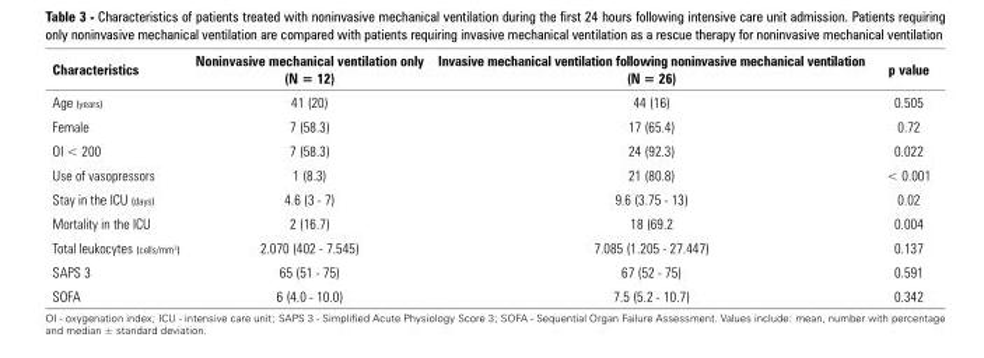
<table><thead><tr><td>Characteristics</td><td>Noninvasive mechanical ventilation only (N = 12)</td><td>Invasive mechanical ventilation following noninvasive mechanical ventilation (N = 26)</td><td>p value</td></tr></thead><tbody><tr><td>Age (years)</td><td>41 (20)</td><td>44 (16)</td><td>0.505</td></tr><tr><td>Female</td><td>7 (58.3)</td><td>17 (65.4)</td><td>0.72</td></tr><tr><td>OI &lt; 200</td><td>7 (58.3)</td><td>24 (92.3)</td><td>0.022</td></tr><tr><td>Use of vasopressors</td><td>1 (8.3)</td><td>21 (80.8)</td><td>&lt; 0.001</td></tr><tr><td>Stay in the ICU (days)</td><td>4.6 (3 - 7)</td><td>9.6 (3.75 - 13)</td><td>0.02</td></tr><tr><td>Mortality in the ICU</td><td>2 (16.7)</td><td>18 (69.2</td><td>0.004</td></tr><tr><td>Total leukocytes (cells/mm<sup>3</sup>)</td><td>2.070 (402 - 7.545)</td><td>7.085 (1.205 - 27.447)</td><td>0.137</td></tr><tr><td>SAPS 3</td><td>65 (51 - 75)</td><td>67 (52 - 75)</td><td>0.591</td></tr><tr><td>SOFA</td><td>6 (4.0 - 10.0)</td><td>7.5 (5.2 - 10.7)</td><td>0.342</td></tr></tbody></table>